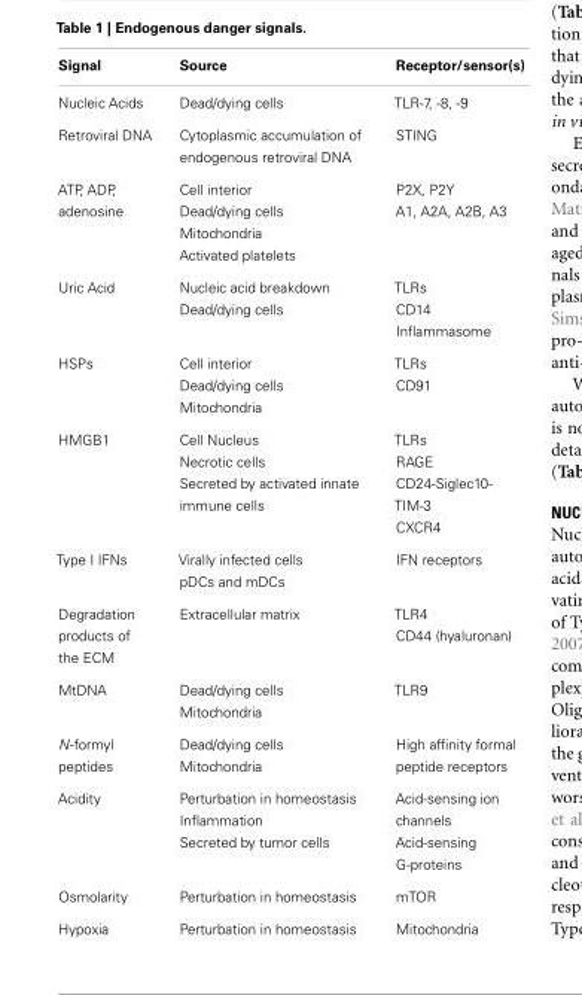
<table><thead><tr><td>Signal</td><td>Source</td><td>Receptor/sensor(s)</td></tr></thead><tbody><tr><td>Nucleic Acids</td><td>Dead/dying cells</td><td>TLR-7, -8, -9</td></tr><tr><td>Retroviral DNA</td><td>Cytoplasmic accumulation of endogenous retroviral DNA</td><td>STING</td></tr><tr><td rowspan="3">ATP, ADP, adenosine</td><td>Cell interior Dead/dying cells</td><td>P2X, P2Y A1, A2A, A2B, A3</td></tr><tr><td>Mitochondria</td><td></td></tr><tr><td>Activated platelets</td><td></td></tr><tr><td rowspan="3">Uric Acid</td><td>Nucleic acid breakdown</td><td>TLRs</td></tr><tr><td>Dead/dying cells</td><td>CD14</td></tr><tr><td></td><td>Inflammasome</td></tr><tr><td rowspan="3">HSPs</td><td>Cell interior</td><td>TLRs</td></tr><tr><td>Dead/dying cells</td><td>CD91</td></tr><tr><td>Mitochondria</td><td></td></tr><tr><td rowspan="4">HMGB1</td><td>Cell Nucleus</td><td>TLRs</td></tr><tr><td>Necrotic cells</td><td>RAGE</td></tr><tr><td>Secreted by activated innate immune cells</td><td>CD24-Siglec10- TIM-3</td></tr><tr><td></td><td>CXCR4</td></tr><tr><td rowspan="2">Type I IFNs</td><td>Virally infected cells</td><td>IFN receptors</td></tr><tr><td>pDCs and mDCs</td><td></td></tr><tr><td>Degradation products of the ECM</td><td>Extracellular matrix</td><td>TLR4 CD44 (hyaluronan)</td></tr><tr><td rowspan="2">MtDNA</td><td>Dead/dying cells</td><td>TLR9</td></tr><tr><td>Mitochondria</td><td></td></tr><tr><td>N-formyl peptides</td><td>Dead/dying cells Mitochondria</td><td>High affinity formal peptide receptors</td></tr><tr><td rowspan="2">Acidity</td><td>Perturbation in homeostasis Inflammation</td><td>Acid-sensing ion channels</td></tr><tr><td>Secreted by tumor cells</td><td>Acid-sensing G-proteins</td></tr><tr><td>Osmolarity</td><td>Perturbation in homeostasis</td><td>mTOR</td></tr><tr><td>Hypoxia</td><td>Perturbation in homeostasis</td><td>Mitochondria</td></tr></tbody></table>